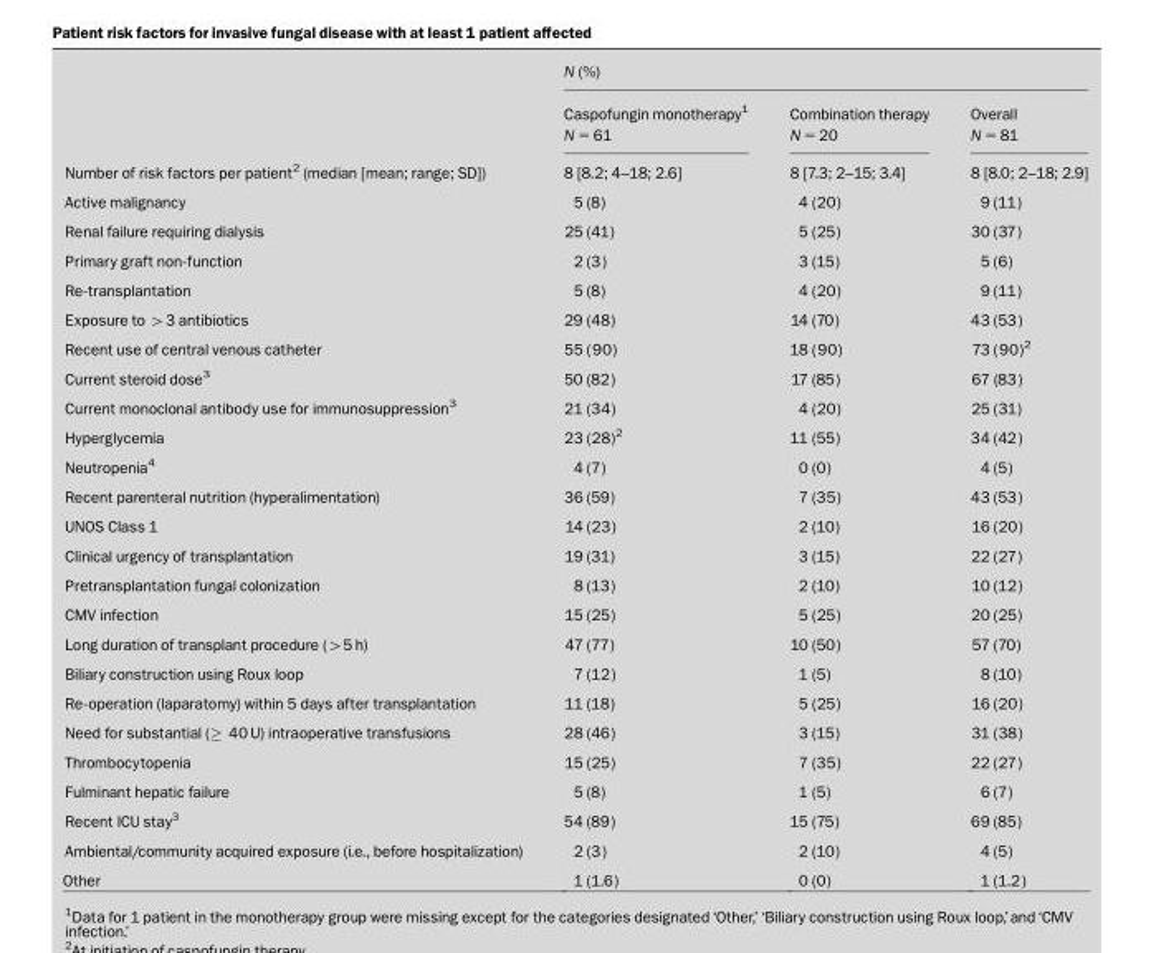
<table><thead><tr><td rowspan="2"></td><td colspan="3">N (%)</td></tr><tr><td>Caspofungin monotherapy<sup>1</sup> N = 61</td><td>Combination therapy N = 20</td><td>Overall N = 81</td></tr></thead><tbody><tr><td>Number of risk factors per patient<sup>2</sup> (median [mean; range; SD])</td><td>8 [8.2; 4–18; 2.6]</td><td>8 [7.3; 2–15; 3.4]</td><td>8 [8.0; 2–18; 2.9]</td></tr><tr><td>Active malignancy</td><td>5 (8)</td><td>4 (20)</td><td>9 (11)</td></tr><tr><td>Renal failure requiring dialysis</td><td>25 (41)</td><td>5 (25)</td><td>30 (37)</td></tr><tr><td>Primary graft non-function</td><td>2 (3)</td><td>3 (15)</td><td>5 (6)</td></tr><tr><td>Re-transplantation</td><td>5 (8)</td><td>4 (20)</td><td>9 (11)</td></tr><tr><td>Exposure to &gt;3 antibiotics</td><td>29 (48)</td><td>14 (70)</td><td>43 (53)</td></tr><tr><td>Recent use of central venous catheter</td><td>55 (90)</td><td>18 (90)</td><td>73 (90)<sup>2</sup></td></tr><tr><td>Current steroid dose<sup>3</sup></td><td>50 (82)</td><td>17 (85)</td><td>67 (83)</td></tr><tr><td>Current monoclonal antibody use for immunosuppression<sup>3</sup></td><td>21 (34)</td><td>4 (20)</td><td>25 (31)</td></tr><tr><td>Hyperglycemia</td><td>23 (28)<sup>2</sup></td><td>11 (55)</td><td>34 (42)</td></tr><tr><td>Neutropenia<sup>4</sup></td><td>4 (7)</td><td>0 (0)</td><td>4 (5)</td></tr><tr><td>Recent parenteral nutrition (hyperalimentation)</td><td>36 (59)</td><td>7 (35)</td><td>43 (53)</td></tr><tr><td>UNOS Class 1</td><td>14 (23)</td><td>2 (10)</td><td>16 (20)</td></tr><tr><td>Clinical urgency of transplantation</td><td>19 (31)</td><td>3 (15)</td><td>22 (27)</td></tr><tr><td>Pretransplantation fungal colonization</td><td>8 (13)</td><td>2 (10)</td><td>10 (12)</td></tr><tr><td>CMV infection</td><td>15 (25)</td><td>5 (25)</td><td>20 (25)</td></tr><tr><td>Long duration of transplant procedure (&gt;5 h)</td><td>47 (77)</td><td>10 (50)</td><td>57 (70)</td></tr><tr><td>Biliary construction using Roux loop</td><td>7 (12)</td><td>1 (5)</td><td>8 (10)</td></tr><tr><td>Re-operation (laparatomy) within 5 days after transplantation</td><td>11 (18)</td><td>5 (25)</td><td>16 (20)</td></tr><tr><td>Need for substantial (≥ 40 U) intraoperative transfusions</td><td>28 (46)</td><td>3 (15)</td><td>31 (38)</td></tr><tr><td>Thrombocytopenia</td><td>15 (25)</td><td>7 (35)</td><td>22 (27)</td></tr><tr><td>Fulminant hepatic failure</td><td>5 (8)</td><td>1 (5)</td><td>6 (7)</td></tr><tr><td>Recent ICU stay<sup>3</sup></td><td>54 (89)</td><td>15 (75)</td><td>69 (85)</td></tr><tr><td>Ambiental/community acquired exposure (i.e., before hospitalization)</td><td>2 (3)</td><td>2 (10)</td><td>4 (5)</td></tr><tr><td>Other</td><td>1 (1.6)</td><td>0 (0)</td><td>1 (1.2)</td></tr></tbody></table>